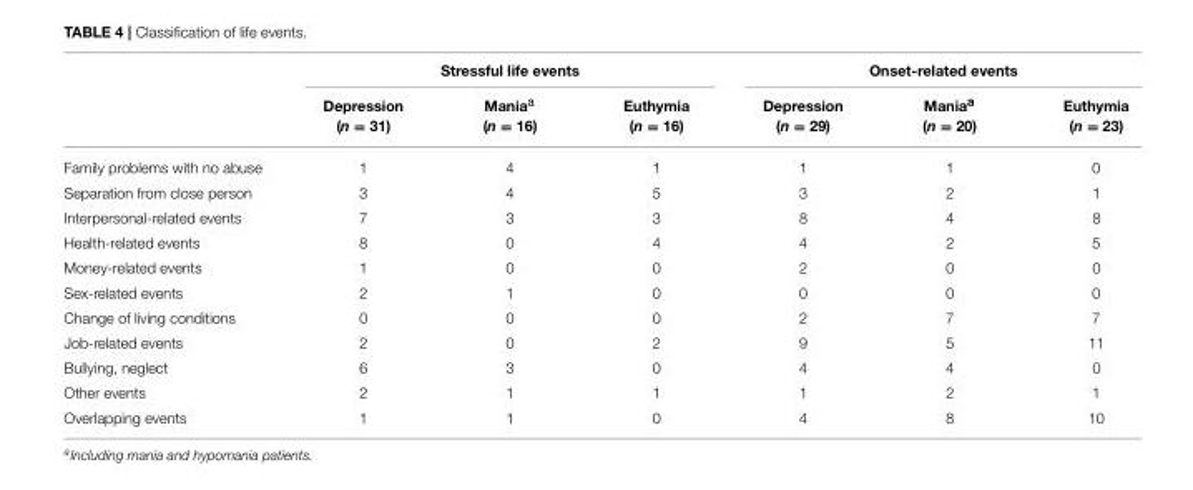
<table><thead><tr><td rowspan="2"></td><td colspan="3">Stressful life events</td><td colspan="3">Onset-related events</td></tr><tr><td>Depression (n = 31)</td><td>Mania<sup>a</sup> (n = 16)</td><td>Euthymia (n = 16)</td><td>Depression (n = 29)</td><td>Mania<sup>a</sup> (n = 20)</td><td>Euthymia (n = 23)</td></tr></thead><tbody><tr><td>Family problems with no abuse</td><td>1</td><td>4</td><td>1</td><td>1</td><td>1</td><td>0</td></tr><tr><td>Separation from close person</td><td>3</td><td>4</td><td>5</td><td>3</td><td>2</td><td>1</td></tr><tr><td>Interpersonal-related events</td><td>7</td><td>3</td><td>3</td><td>8</td><td>4</td><td>8</td></tr><tr><td>Health-related events</td><td>8</td><td>0</td><td>4</td><td>4</td><td>2</td><td>5</td></tr><tr><td>Money-related events</td><td>1</td><td>0</td><td>0</td><td>2</td><td>0</td><td>0</td></tr><tr><td>Sex-related events</td><td>2</td><td>1</td><td>0</td><td>0</td><td>0</td><td>0</td></tr><tr><td>Change of living conditions</td><td>0</td><td>0</td><td>0</td><td>2</td><td>7</td><td>7</td></tr><tr><td>Job-related events</td><td>2</td><td>0</td><td>2</td><td>9</td><td>5</td><td>11</td></tr><tr><td>Bullying, neglect</td><td>6</td><td>3</td><td>0</td><td>4</td><td>4</td><td>0</td></tr><tr><td>Other events</td><td>2</td><td>1</td><td>1</td><td>1</td><td>2</td><td>1</td></tr><tr><td>Overlapping events</td><td>1</td><td>1</td><td>0</td><td>4</td><td>8</td><td>10</td></tr></tbody></table>